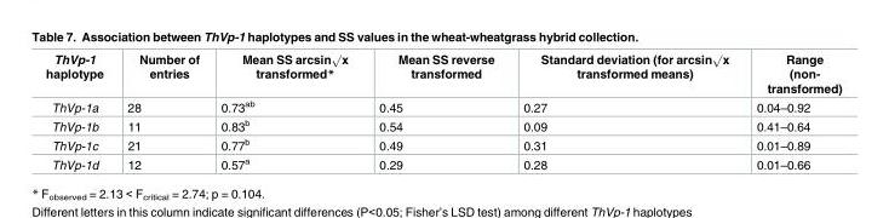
<table><thead><tr><td>ThVp-1 haplotype</td><td>Number of entries</td><td>Mean SS arcsin√x transformed*</td><td>Mean SS reverse transformed</td><td>Standard deviation (for arcsin√x transformed means)</td><td>Range (non- transformed)</td></tr></thead><tbody><tr><td>ThVp-1a</td><td>28</td><td>0.73<sup>ab</sup></td><td>0.45</td><td>0.27</td><td>0.04–0.92</td></tr><tr><td>ThVp-1b</td><td>11</td><td>0.83<sup>b</sup></td><td>0.54</td><td>0.09</td><td>0.41–0.64</td></tr><tr><td>ThVp-1c</td><td>21</td><td>0.77<sup>b</sup></td><td>0.49</td><td>0.31</td><td>0.01–0.89</td></tr><tr><td>ThVp-1d</td><td>12</td><td>0.57<sup>a</sup></td><td>0.29</td><td>0.28</td><td>0.01–0.66</td></tr></tbody></table>